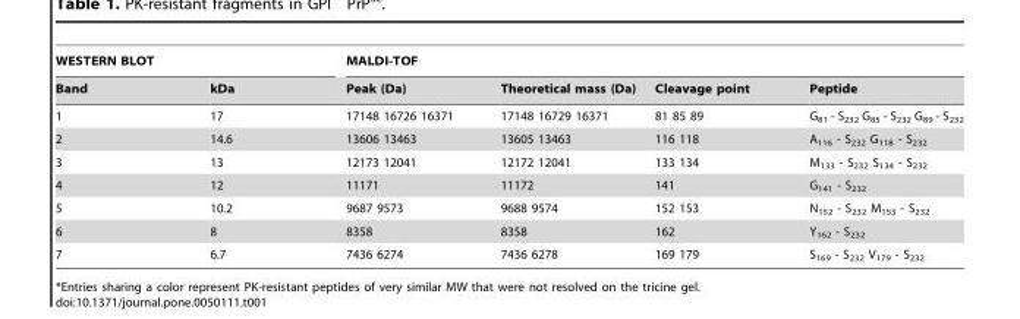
<table><thead><tr><td colspan="2">WESTERN BLOT</td><td colspan="4">MALDI-TOF</td></tr><tr><td>Band</td><td>kDa</td><td>Peak (Da)</td><td>Theoretical mass (Da)</td><td>Cleavage point</td><td>Peptide</td></tr></thead><tbody><tr><td>1</td><td>17</td><td>17148 16726 16371</td><td>17148 16729 16371</td><td>81 85 89</td><td>G<sub>81</sub> - S<sub>232</sub> G<sub>85</sub> - S<sub>232</sub> G<sub>89</sub> - S<sub>232</sub></td></tr><tr><td>2</td><td>14.6</td><td>13606 13463</td><td>13605 13463</td><td>116 118</td><td>A<sub>116</sub> - S<sub>232</sub> G<sub>118</sub> - S<sub>232</sub></td></tr><tr><td>3</td><td>13</td><td>12173 12041</td><td>12172 12041</td><td>133 134</td><td>M<sub>133</sub> - S<sub>232</sub> S<sub>134</sub> - S<sub>232</sub></td></tr><tr><td>4</td><td>12</td><td>11171</td><td>11172</td><td>141</td><td>G<sub>141</sub> - S<sub>232</sub></td></tr><tr><td>5</td><td>10.2</td><td>9687 9573</td><td>9688 9574</td><td>152 153</td><td>N<sub>152</sub> - S<sub>232</sub> M<sub>153</sub> - S<sub>232</sub></td></tr><tr><td>6</td><td>8</td><td>8358</td><td>8358</td><td>162</td><td>Y<sub>162</sub> - S<sub>232</sub></td></tr><tr><td>7</td><td>6.7</td><td>7436 6274</td><td>7436 6278</td><td>169 179</td><td>S<sub>169</sub> - S<sub>232</sub> V<sub>179</sub> - S<sub>232</sub></td></tr></tbody></table>